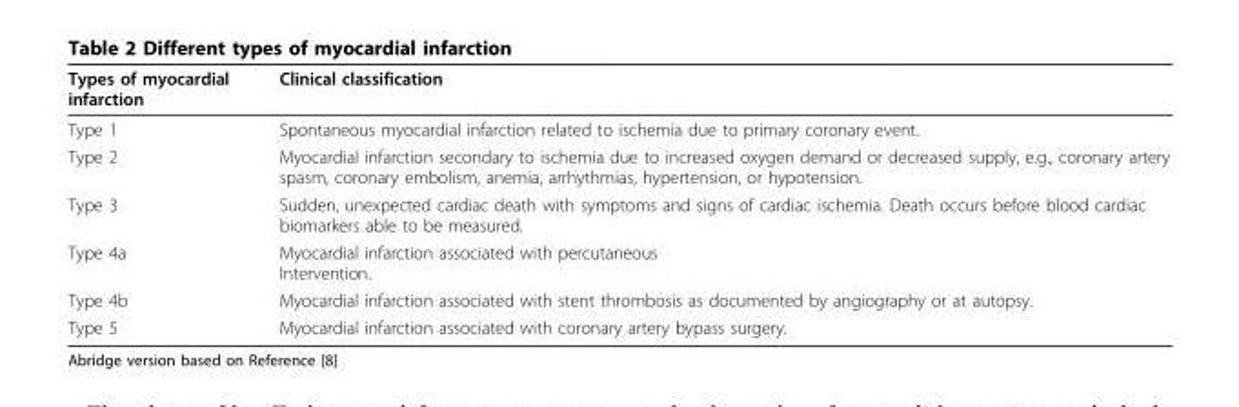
<table><thead><tr><td>Types of myocardial infarction</td><td>Clinical classification</td></tr></thead><tbody><tr><td>Type 1</td><td>Spontaneous myocardial infarction related to ischemia due to primary coronary event.</td></tr><tr><td>Type 2</td><td>Myocardial infarction secondary to ischemia due to increased oxygen demand or decreased supply, e.g., coronary artery spasm, coronary embolism, anemia, arrhythmias, hypertension, or hypotension.</td></tr><tr><td>Type 3</td><td>Sudden, unexpected cardiac death with symptoms and signs of cardiac ischemia. Death occurs before blood cardiac biomarkers able to be measured.</td></tr><tr><td>Type 4a</td><td>Myocardial infarction associated with percutaneous Intervention.</td></tr><tr><td>Type 4b</td><td>Myocardial infarction associated with stent thrombosis as documented by angiography or at autopsy.</td></tr><tr><td>Type 5</td><td>Myocardial infarction associated with coronary artery bypass surgery.</td></tr></tbody></table>